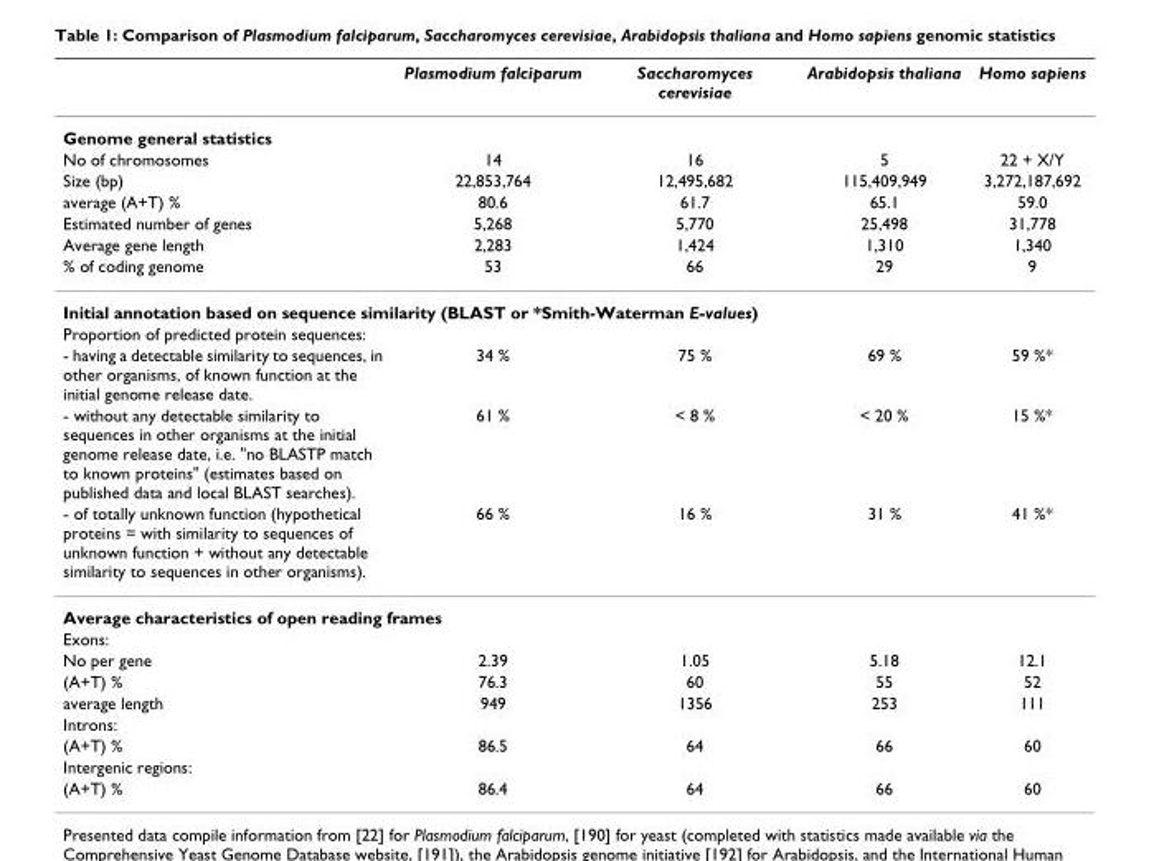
<table><thead><tr><td></td><td>Plasmodium falciparum</td><td>Saccharomyces cerevisiae</td><td>Arabidopsis thaliana</td><td>Homo sapiens</td></tr></thead><tbody><tr><td colspan="5">Genome general statistics</td></tr><tr><td>No of chromosomes</td><td>14</td><td>16</td><td>5</td><td>22 + X/Y</td></tr><tr><td>Size (bp)</td><td>22,853,764</td><td>12,495,682</td><td>115,409,949</td><td>3,272,187,692</td></tr><tr><td>average (A+T) %</td><td>80.6</td><td>61.7</td><td>65.1</td><td>59.0</td></tr><tr><td>Estimated number of genes</td><td>5,268</td><td>5,770</td><td>25,498</td><td>31,778</td></tr><tr><td>Average gene length</td><td>2,283</td><td>1,424</td><td>1,310</td><td>1,340</td></tr><tr><td>% of coding genome</td><td>53</td><td>66</td><td>29</td><td>9</td></tr><tr><td colspan="5">Initial annotation based on sequence similarity (BLAST or *Smith-Waterman E-values)</td></tr><tr><td colspan="5">Proportion of predicted protein sequences:</td></tr><tr><td>- having a detectable similarity to sequences, in other organisms, of known function at the initial genome release date.</td><td>34 %</td><td>75 %</td><td>69 %</td><td>59 %*</td></tr><tr><td>- without any detectable similarity to sequences in other organisms at the initial genome release date, i.e. &quot;no BLASTP match to known proteins&quot; (estimates based on published data and local BLAST searches).</td><td>61 %</td><td>&lt; 8 %</td><td>&lt; 20 %</td><td>15 %*</td></tr><tr><td>- of totally unknown function (hypothetical proteins = with similarity to sequences of unknown function + without any detectable similarity to sequences in other organisms).</td><td>66 %</td><td>16 %</td><td>31 %</td><td>41 %*</td></tr><tr><td colspan="5">Average characteristics of open reading frames</td></tr><tr><td colspan="5">Exons:</td></tr><tr><td>No per gene</td><td>2.39</td><td>1.05</td><td>5.18</td><td>12.1</td></tr><tr><td>(A+T) %</td><td>76.3</td><td>60</td><td>55</td><td>52</td></tr><tr><td>average length</td><td>949</td><td>1356</td><td>253</td><td>111</td></tr><tr><td colspan="5">Introns:</td></tr><tr><td>(A+T) %</td><td>86.5</td><td>64</td><td>66</td><td>60</td></tr><tr><td colspan="5">Intergenic regions:</td></tr><tr><td>(A+T) %</td><td>86.4</td><td>64</td><td>66</td><td>60</td></tr></tbody></table>